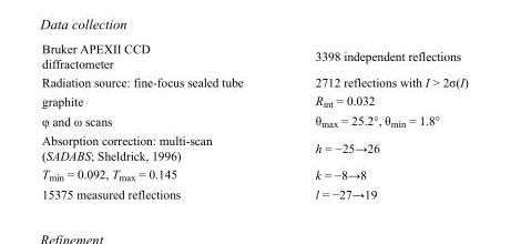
<table><tbody><tr><td>Bruker APEXII CCD diffractometer</td><td>3398 independent reflections</td></tr><tr><td>Radiation source: fine-focus sealed tube</td><td>2712 reflections with I &gt; 2σ(I)</td></tr><tr><td>graphite</td><td>R<sub>int</sub> = 0.032</td></tr><tr><td>φ and ω scans</td><td>θ<sub>max</sub> = 25.2°, θ<sub>min</sub> = 1.8°</td></tr><tr><td>Absorption correction: multi-scan (SADABS; Sheldrick, 1996)</td><td>h = −25→26</td></tr><tr><td>T<sub>min</sub> = 0.092, T<sub>max</sub> = 0.145</td><td>k = −8→8</td></tr><tr><td>15375 measured reflections</td><td>l = −27→19</td></tr></tbody></table>